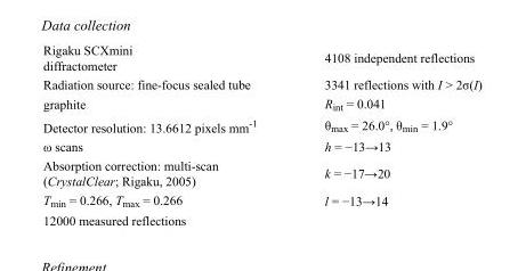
<table><tbody><tr><td>Rigaku SCXmini diffractometer</td><td>4108 independent reflections</td></tr><tr><td>Radiation source: fine-focus sealed tube</td><td>3341 reflections with I &gt; 2σ(I)</td></tr><tr><td>graphite</td><td>R<sub>int</sub> = 0.041</td></tr><tr><td>Detector resolution: 13.6612 pixels mm<sup>-1</sup></td><td>θ<sub>max</sub> = 26.0°, θ<sub>min</sub> = 1.9°</td></tr><tr><td>ω scans</td><td>h = −13→13</td></tr><tr><td>Absorption correction: multi-scan (CrystalClear; Rigaku, 2005)</td><td>k = −17→20</td></tr><tr><td>T<sub>min</sub> = 0.266, T<sub>max</sub> = 0.266</td><td>l = −13→14</td></tr><tr><td>12000 measured reflections</td><td></td></tr></tbody></table>